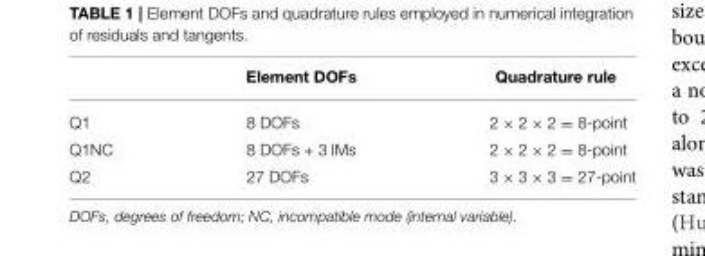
<table><thead><tr><td></td><td>Element DOFs</td><td>Quadrature rule</td></tr></thead><tbody><tr><td>Q1</td><td>8 DOFs</td><td>2 × 2 × 2 = 8-point</td></tr><tr><td>Q1NC</td><td>8 DOFs + 3 IMs</td><td>2 × 2 × 2 = 8-point</td></tr><tr><td>Q2</td><td>27 DOFs</td><td>3 × 3 × 3 = 27-point</td></tr></tbody></table>